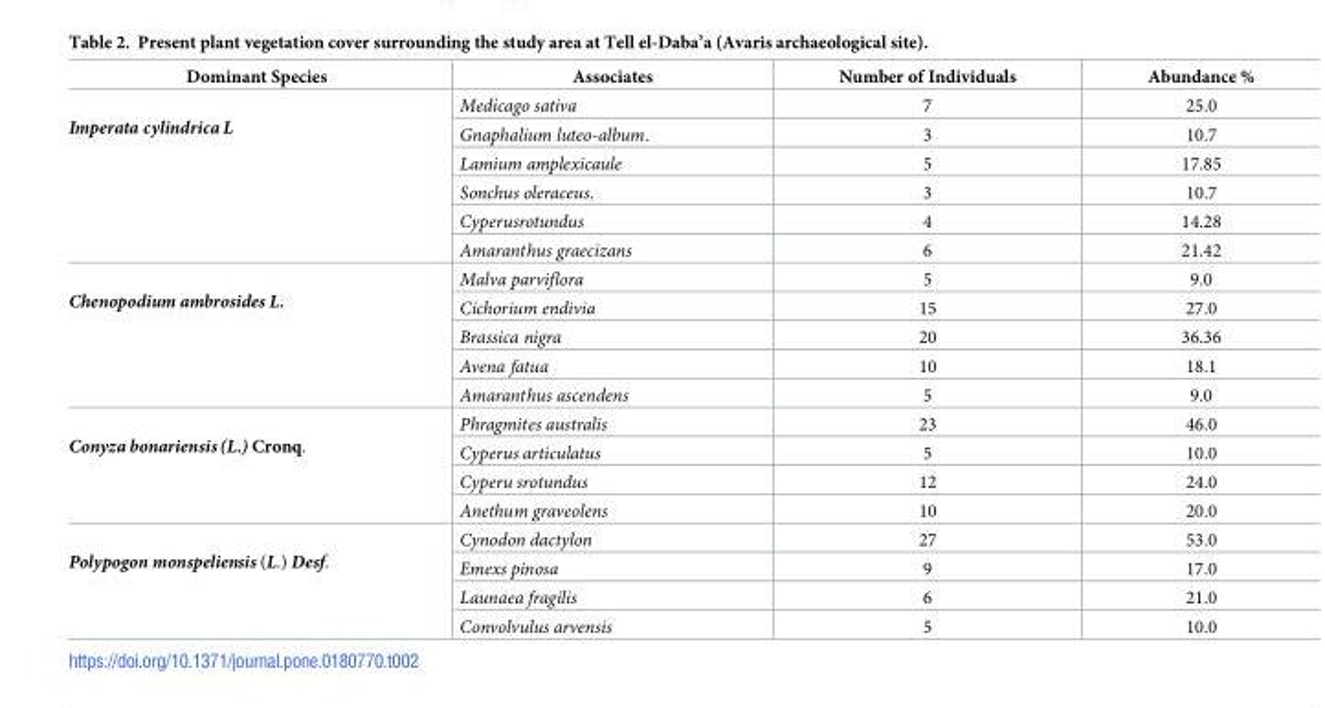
<table><thead><tr><td>Dominant Species</td><td>Associates</td><td>Number of Individuals</td><td>Abundance %</td></tr></thead><tbody><tr><td rowspan="6">Imperata cylindrica L</td><td>Medicago sativa</td><td>7</td><td>25.0</td></tr><tr><td>Gnaphalium luteo-album.</td><td>3</td><td>10.7</td></tr><tr><td>Lamium amplexicaule</td><td>5</td><td>17.85</td></tr><tr><td>Sonchus oleraceus.</td><td>3</td><td>10.7</td></tr><tr><td>Cyperusrotundus</td><td>4</td><td>14.28</td></tr><tr><td>Amaranthus graecizans</td><td>6</td><td>21.42</td></tr><tr><td rowspan="5">Chenopodium ambrosides L.</td><td>Malva parviflora</td><td>5</td><td>9.0</td></tr><tr><td>Cichorium endivia</td><td>15</td><td>27.0</td></tr><tr><td>Brassica nigra</td><td>20</td><td>36.36</td></tr><tr><td>Avena fatua</td><td>10</td><td>18.1</td></tr><tr><td>Amaranthus ascendens</td><td>5</td><td>9.0</td></tr><tr><td rowspan="4">Conyza bonariensis(L.) Cronq.</td><td>Phragmites australis</td><td>23</td><td>46.0</td></tr><tr><td>Cyperus articulatus</td><td>5</td><td>10.0</td></tr><tr><td>Cyperu srotundus</td><td>12</td><td>24.0</td></tr><tr><td>Anethum graveolens</td><td>10</td><td>20.0</td></tr><tr><td rowspan="4">Polypogon monspeliensis (L.) Desf.</td><td>Cynodon dactylon</td><td>27</td><td>53.0</td></tr><tr><td>Emexs pinosa</td><td>9</td><td>17.0</td></tr><tr><td>Launaea fragilis</td><td>6</td><td>21.0</td></tr><tr><td>Convolvulus arvensis</td><td>5</td><td>10.0</td></tr></tbody></table>